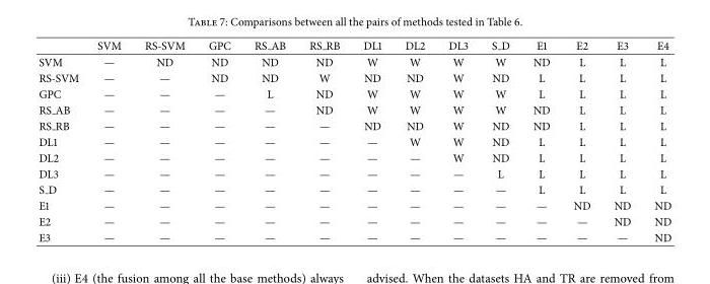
<table><thead><tr><td></td><td>SVM</td><td>RS-SVM</td><td>GPC</td><td>RS AB</td><td>RS RB</td><td>DL1</td><td>DL2</td><td>DL3</td><td>S D</td><td>E1</td><td>E2</td><td>E3</td><td>E4</td></tr></thead><tbody><tr><td>SVM</td><td>—</td><td>ND</td><td>ND</td><td>ND</td><td>ND</td><td>W</td><td>W</td><td>W</td><td>W</td><td>ND</td><td>L</td><td>L</td><td>L</td></tr><tr><td>RS-SVM</td><td>—</td><td>—</td><td>ND</td><td>ND</td><td>W</td><td>ND</td><td>ND</td><td>W</td><td>ND</td><td>L</td><td>L</td><td>L</td><td>L</td></tr><tr><td>GPC</td><td>—</td><td>—</td><td>—</td><td>L</td><td>ND</td><td>W</td><td>W</td><td>W</td><td>W</td><td>L</td><td>L</td><td>L</td><td>L</td></tr><tr><td>RS AB</td><td>—</td><td>—</td><td>—</td><td>—</td><td>ND</td><td>W</td><td>W</td><td>W</td><td>W</td><td>ND</td><td>L</td><td>L</td><td>L</td></tr><tr><td>RS RB</td><td>—</td><td>—</td><td>—</td><td>—</td><td>—</td><td>ND</td><td>ND</td><td>W</td><td>ND</td><td>ND</td><td>L</td><td>L</td><td>L</td></tr><tr><td>DL1</td><td>—</td><td>—</td><td>—</td><td>—</td><td>—</td><td>—</td><td>W</td><td>W</td><td>ND</td><td>L</td><td>L</td><td>L</td><td>L</td></tr><tr><td>DL2</td><td>—</td><td>—</td><td>—</td><td>—</td><td>—</td><td>—</td><td>—</td><td>W</td><td>ND</td><td>L</td><td>L</td><td>L</td><td>L</td></tr><tr><td>DL3</td><td>—</td><td>—</td><td>—</td><td>—</td><td>—</td><td>—</td><td>—</td><td>—</td><td>L</td><td>L</td><td>L</td><td>L</td><td>L</td></tr><tr><td>S D</td><td>—</td><td>—</td><td>—</td><td>—</td><td>—</td><td>—</td><td>—</td><td>—</td><td>—</td><td>L</td><td>L</td><td>L</td><td>L</td></tr><tr><td>E1</td><td>—</td><td>—</td><td>—</td><td>—</td><td>—</td><td>—</td><td>—</td><td>—</td><td>—</td><td>—</td><td>ND</td><td>ND</td><td>ND</td></tr><tr><td>E2</td><td>—</td><td>—</td><td>—</td><td>—</td><td>—</td><td>—</td><td>—</td><td>—</td><td>—</td><td>—</td><td>—</td><td>ND</td><td>ND</td></tr><tr><td>E3</td><td>—</td><td>—</td><td>—</td><td>—</td><td>—</td><td>—</td><td>—</td><td>—</td><td>—</td><td>—</td><td>—</td><td>—</td><td>ND</td></tr></tbody></table>